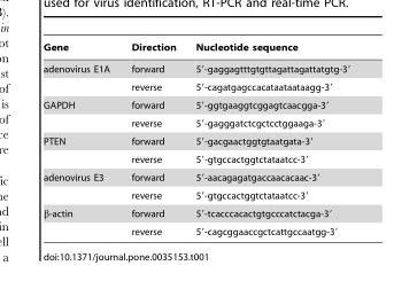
<table><thead><tr><td>Gene</td><td>Direction</td><td>Nucleotide sequence</td></tr></thead><tbody><tr><td rowspan="2">adenovirus E1A</td><td>forward</td><td>5′-gaggagtttgtgttagattagattatgtg-3′</td></tr><tr><td>reverse</td><td>5′-cagatgagccacataataataagg-3′</td></tr><tr><td rowspan="2">GAPDH</td><td>forward</td><td>5′-ggtgaaggtcggagtcaacgga-3′</td></tr><tr><td>reverse</td><td>5′-gagggatctcgctcctggaaga-3′</td></tr><tr><td rowspan="2">PTEN</td><td>forward</td><td>5′-gacgaactggtgtaatgata-3′</td></tr><tr><td>reverse</td><td>5′-gtgccactggtctataatcc-3′</td></tr><tr><td rowspan="2">adenovirus E3</td><td>forward</td><td>5′-aacagagatgaccaacacaac-3′</td></tr><tr><td>reverse</td><td>5′-gtgccactggtctataatcc-3′</td></tr><tr><td rowspan="2">β-actin</td><td>forward</td><td>5′-tcacccacactgtgcccatctacga-3′</td></tr><tr><td>reverse</td><td>5′-cagcggaaccgctcattgccaatgg-3′</td></tr></tbody></table>